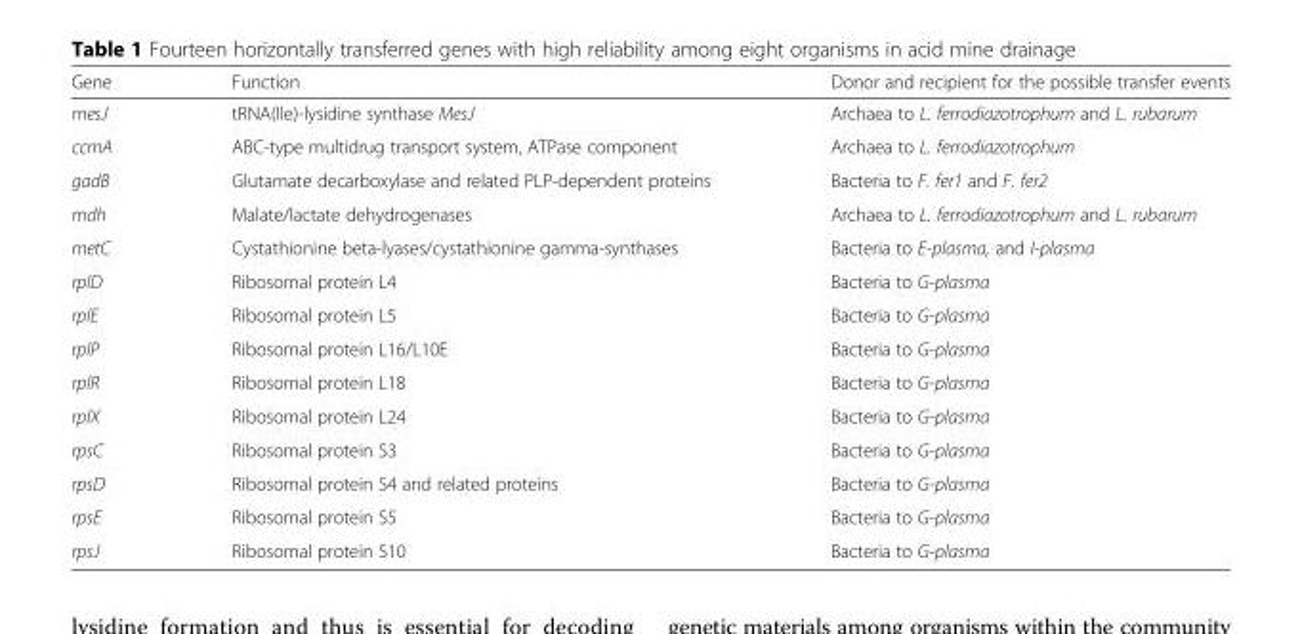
<table><thead><tr><td>Gene</td><td>Function</td><td>Donor and recipient for the possible transfer events</td></tr></thead><tbody><tr><td>mesJ</td><td>tRNA(Ile)-lysidine synthase MesJ</td><td>Archaea to L. ferrodiazotrophum and L. rubarum</td></tr><tr><td>ccmA</td><td>ABC-type multidrug transport system, ATPase component</td><td>Archaea to L. ferrodiazotrophum</td></tr><tr><td>gadB</td><td>Glutamate decarboxylase and related PLP-dependent proteins</td><td>Bacteria to F. fer1 and F. fer2</td></tr><tr><td>mdh</td><td>Malate/lactate dehydrogenases</td><td>Archaea to L. ferrodiazotrophum and L. rubarum</td></tr><tr><td>metC</td><td>Cystathionine beta-lyases/cystathionine gamma-synthases</td><td>Bacteria to E-plasma, and I-plasma</td></tr><tr><td>rplD</td><td>Ribosomal protein L4</td><td>Bacteria to G-plasma</td></tr><tr><td>rplE</td><td>Ribosomal protein L5</td><td>Bacteria to G-plasma</td></tr><tr><td>rplP</td><td>Ribosomal protein L16/L10E</td><td>Bacteria to G-plasma</td></tr><tr><td>rplR</td><td>Ribosomal protein L18</td><td>Bacteria to G-plasma</td></tr><tr><td>rplX</td><td>Ribosomal protein L24</td><td>Bacteria to G-plasma</td></tr><tr><td>rpsC</td><td>Ribosomal protein S3</td><td>Bacteria to G-plasma</td></tr><tr><td>rpsD</td><td>Ribosomal protein S4 and related proteins</td><td>Bacteria to G-plasma</td></tr><tr><td>rpsE</td><td>Ribosomal protein S5</td><td>Bacteria to G-plasma</td></tr><tr><td>rpsJ</td><td>Ribosomal protein S10</td><td>Bacteria to G-plasma</td></tr></tbody></table>